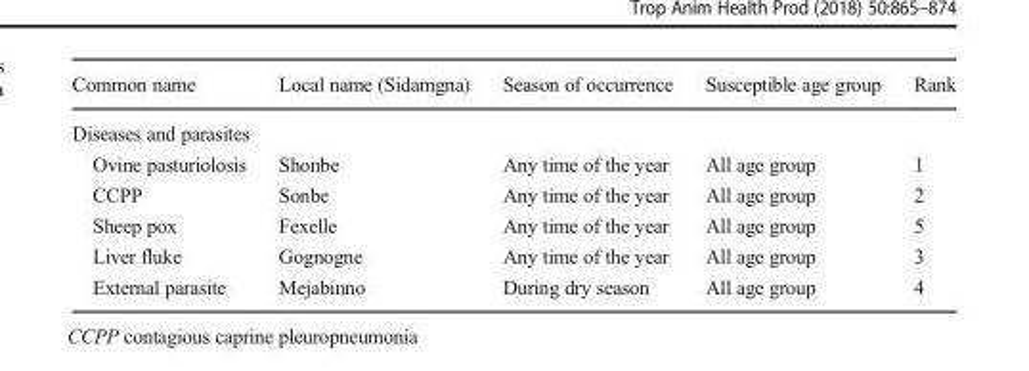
<table><thead><tr><td>Common name</td><td>Local name (Sidamgna)</td><td>Season of occurrence</td><td>Susceptible age group</td><td>Rank</td></tr></thead><tbody><tr><td colspan="5">Diseases and parasites</td></tr><tr><td>Ovine pasturiolosis</td><td>Shonbe</td><td>Any time of the year</td><td>All age group</td><td>1</td></tr><tr><td>CCPP</td><td>Sonbe</td><td>Any time of the year</td><td>All age group</td><td>2</td></tr><tr><td>Sheep pox</td><td>Fexelle</td><td>Any time of the year</td><td>All age group</td><td>5</td></tr><tr><td>Liver fluke</td><td>Gognogne</td><td>Any time of the year</td><td>All age group</td><td>3</td></tr><tr><td>External parasite</td><td>Mejabinno</td><td>During dry season</td><td>All age group</td><td>4</td></tr></tbody></table>